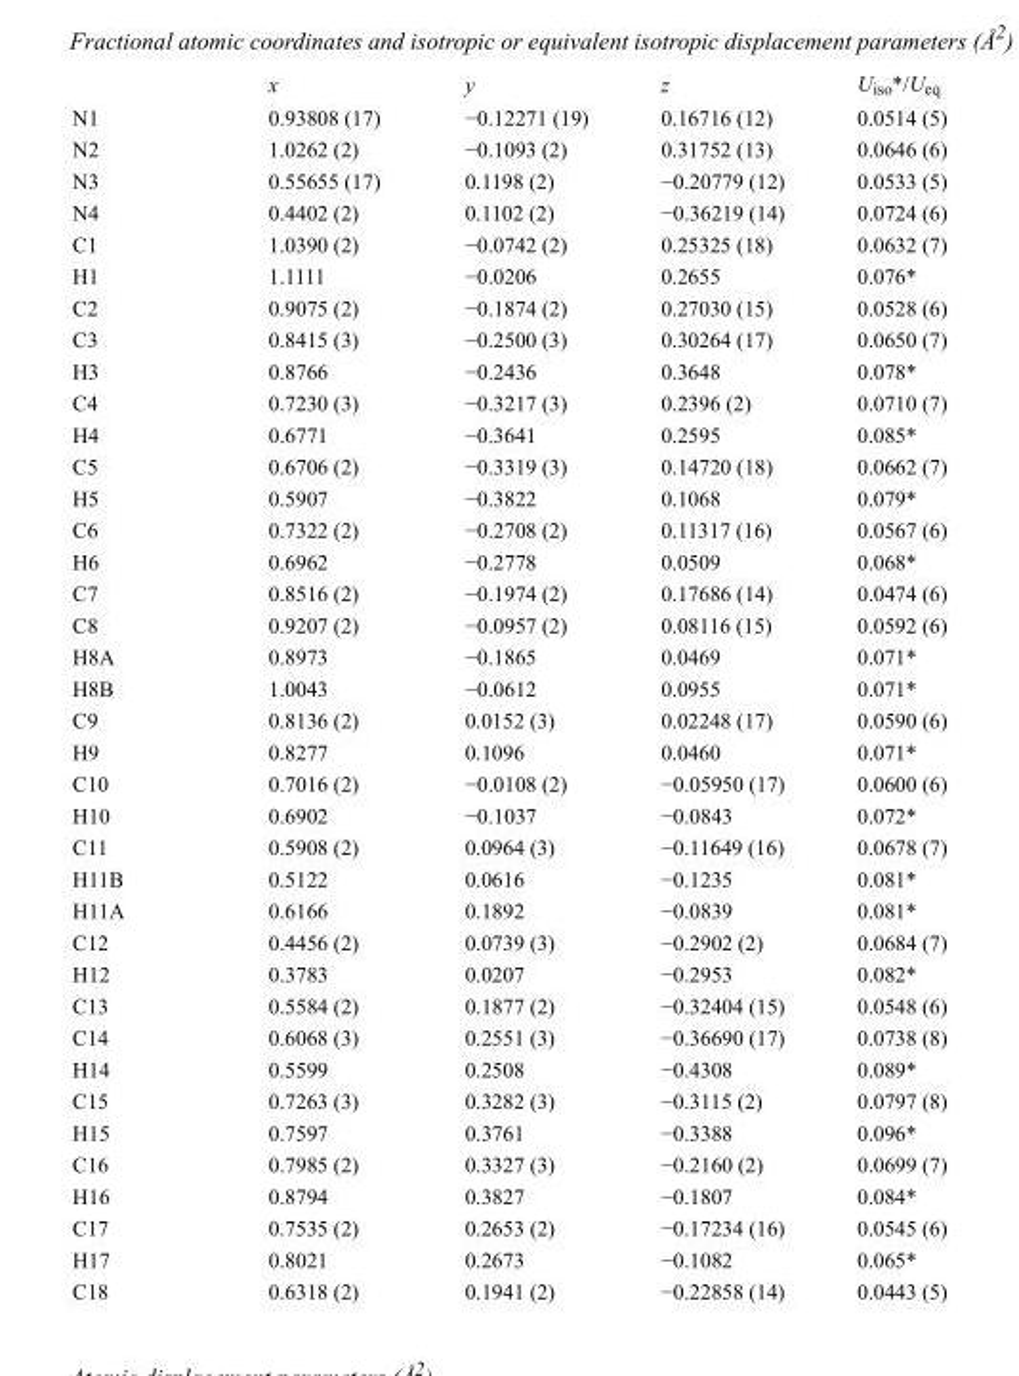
<table><thead><tr><td></td><td>x</td><td>y</td><td>z</td><td>U<sub>iso</sub>*/U<sub>eq</sub></td></tr></thead><tbody><tr><td>N1</td><td>0.93808 (17)</td><td>−0.12271 (19)</td><td>0.16716 (12)</td><td>0.0514 (5)</td></tr><tr><td>N2</td><td>1.0262 (2)</td><td>−0.1093 (2)</td><td>0.31752 (13)</td><td>0.0646 (6)</td></tr><tr><td>N3</td><td>0.55655 (17)</td><td>0.1198 (2)</td><td>−0.20779 (12)</td><td>0.0533 (5)</td></tr><tr><td>N4</td><td>0.4402 (2)</td><td>0.1102 (2)</td><td>−0.36219 (14)</td><td>0.0724 (6)</td></tr><tr><td>C1</td><td>1.0390 (2)</td><td>−0.0742 (2)</td><td>0.25325 (18)</td><td>0.0632 (7)</td></tr><tr><td>H1</td><td>1.1111</td><td>−0.0206</td><td>0.2655</td><td>0.076*</td></tr><tr><td>C2</td><td>0.9075 (2)</td><td>−0.1874 (2)</td><td>0.27030 (15)</td><td>0.0528 (6)</td></tr><tr><td>C3</td><td>0.8415 (3)</td><td>−0.2500 (3)</td><td>0.30264 (17)</td><td>0.0650 (7)</td></tr><tr><td>H3</td><td>0.8766</td><td>−0.2436</td><td>0.3648</td><td>0.078*</td></tr><tr><td>C4</td><td>0.7230 (3)</td><td>−0.3217 (3)</td><td>0.2396 (2)</td><td>0.0710 (7)</td></tr><tr><td>H4</td><td>0.6771</td><td>−0.3641</td><td>0.2595</td><td>0.085*</td></tr><tr><td>C5</td><td>0.6706 (2)</td><td>−0.3319 (3)</td><td>0.14720 (18)</td><td>0.0662 (7)</td></tr><tr><td>H5</td><td>0.5907</td><td>−0.3822</td><td>0.1068</td><td>0.079*</td></tr><tr><td>C6</td><td>0.7322 (2)</td><td>−0.2708 (2)</td><td>0.11317 (16)</td><td>0.0567 (6)</td></tr><tr><td>H6</td><td>0.6962</td><td>−0.2778</td><td>0.0509</td><td>0.068*</td></tr><tr><td>C7</td><td>0.8516 (2)</td><td>−0.1974 (2)</td><td>0.17686 (14)</td><td>0.0474 (6)</td></tr><tr><td>C8</td><td>0.9207 (2)</td><td>−0.0957 (2)</td><td>0.08116 (15)</td><td>0.0592 (6)</td></tr><tr><td>H8A</td><td>0.8973</td><td>−0.1865</td><td>0.0469</td><td>0.071*</td></tr><tr><td>H8B</td><td>1.0043</td><td>−0.0612</td><td>0.0955</td><td>0.071*</td></tr><tr><td>C9</td><td>0.8136 (2)</td><td>0.0152 (3)</td><td>0.02248 (17)</td><td>0.0590 (6)</td></tr><tr><td>H9</td><td>0.8277</td><td>0.1096</td><td>0.0460</td><td>0.071*</td></tr><tr><td>C10</td><td>0.7016 (2)</td><td>−0.0108 (2)</td><td>−0.05950 (17)</td><td>0.0600 (6)</td></tr><tr><td>H10</td><td>0.6902</td><td>−0.1037</td><td>−0.0843</td><td>0.072*</td></tr><tr><td>C11</td><td>0.5908 (2)</td><td>0.0964 (3)</td><td>−0.11649 (16)</td><td>0.0678 (7)</td></tr><tr><td>H11B</td><td>0.5122</td><td>0.0616</td><td>−0.1235</td><td>0.081*</td></tr><tr><td>H11A</td><td>0.6166</td><td>0.1892</td><td>−0.0839</td><td>0.081*</td></tr><tr><td>C12</td><td>0.4456 (2)</td><td>0.0739 (3)</td><td>−0.2902 (2)</td><td>0.0684 (7)</td></tr><tr><td>H12</td><td>0.3783</td><td>0.0207</td><td>−0.2953</td><td>0.082*</td></tr><tr><td>C13</td><td>0.5584 (2)</td><td>0.1877 (2)</td><td>−0.32404 (15)</td><td>0.0548 (6)</td></tr><tr><td>C14</td><td>0.6068 (3)</td><td>0.2551 (3)</td><td>−0.36690 (17)</td><td>0.0738 (8)</td></tr><tr><td>H14</td><td>0.5599</td><td>0.2508</td><td>−0.4308</td><td>0.089*</td></tr><tr><td>C15</td><td>0.7263 (3)</td><td>0.3282 (3)</td><td>−0.3115 (2)</td><td>0.0797 (8)</td></tr><tr><td>H15</td><td>0.7597</td><td>0.3761</td><td>−0.3388</td><td>0.096*</td></tr><tr><td>C16</td><td>0.7985 (2)</td><td>0.3327 (3)</td><td>−0.2160 (2)</td><td>0.0699 (7)</td></tr><tr><td>H16</td><td>0.8794</td><td>0.3827</td><td>−0.1807</td><td>0.084*</td></tr><tr><td>C17</td><td>0.7535 (2)</td><td>0.2653 (2)</td><td>−0.17234 (16)</td><td>0.0545 (6)</td></tr><tr><td>H17</td><td>0.8021</td><td>0.2673</td><td>−0.1082</td><td>0.065*</td></tr><tr><td>C18</td><td>0.6318 (2)</td><td>0.1941 (2)</td><td>−0.22858 (14)</td><td>0.0443 (5)</td></tr></tbody></table>